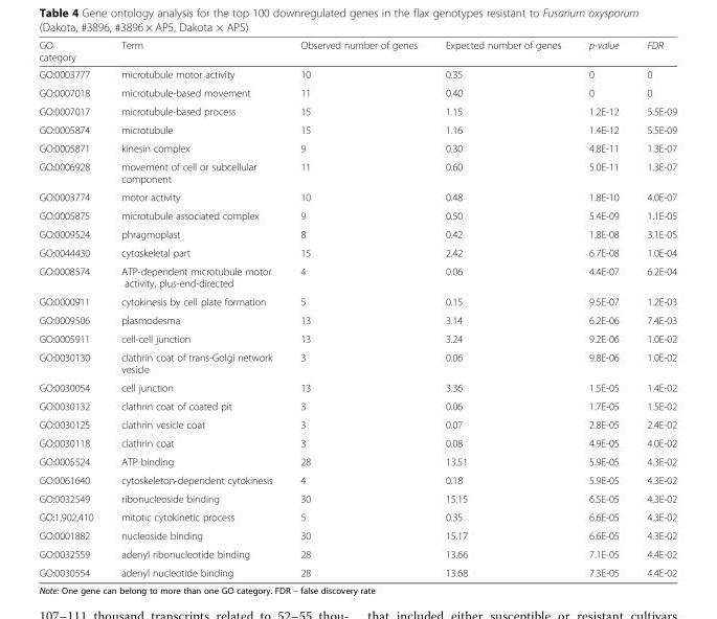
<table><thead><tr><td>GO category</td><td>Term</td><td>Observed number of genes</td><td>Expected number of genes</td><td>p-value</td><td>FDR</td></tr></thead><tbody><tr><td>GO:0003777</td><td>microtubule motor activity</td><td>10</td><td>0.35</td><td>0</td><td>0</td></tr><tr><td>GO:0007018</td><td>microtubule-based movement</td><td>11</td><td>0.40</td><td>0</td><td>0</td></tr><tr><td>GO:0007017</td><td>microtubule-based process</td><td>15</td><td>1.15</td><td>1.2E-12</td><td>5.5E-09</td></tr><tr><td>GO:0005874</td><td>microtubule</td><td>15</td><td>1.16</td><td>1.4E-12</td><td>5.5E-09</td></tr><tr><td>GO:0005871</td><td>kinesin complex</td><td>9</td><td>0.30</td><td>4.8E-11</td><td>1.3E-07</td></tr><tr><td>GO:0006928</td><td>movement of cell or subcellular component</td><td>11</td><td>0.60</td><td>5.0E-11</td><td>1.3E-07</td></tr><tr><td>GO:0003774</td><td>motor activity</td><td>10</td><td>0.48</td><td>1.8E-10</td><td>4.0E-07</td></tr><tr><td>GO:0005875</td><td>microtubule associated complex</td><td>9</td><td>0.50</td><td>5.4E-09</td><td>1.1E-05</td></tr><tr><td>GO:0009524</td><td>phragmoplast</td><td>8</td><td>0.42</td><td>1.8E-08</td><td>3.1E-05</td></tr><tr><td>GO:0044430</td><td>cytoskeletal part</td><td>15</td><td>2.42</td><td>6.7E-08</td><td>1.0E-04</td></tr><tr><td>GO:0008574</td><td>ATP-dependent microtubule motor activity, plus-end-directed</td><td>4</td><td>0.06</td><td>4.4E-07</td><td>6.2E-04</td></tr><tr><td>GO:0000911</td><td>cytokinesis by cell plate formation</td><td>5</td><td>0.15</td><td>9.5E-07</td><td>1.2E-03</td></tr><tr><td>GO:0009506</td><td>plasmodesma</td><td>13</td><td>3.14</td><td>6.2E-06</td><td>7.4E-03</td></tr><tr><td>GO:0005911</td><td>cell-cell junction</td><td>13</td><td>3.24</td><td>9.2E-06</td><td>1.0E-02</td></tr><tr><td>GO:0030130</td><td>clathrin coat of trans-Golgi network vesicle</td><td>3</td><td>0.06</td><td>9.8E-06</td><td>1.0E-02</td></tr><tr><td>GO:0030054</td><td>cell junction</td><td>13</td><td>3.36</td><td>1.5E-05</td><td>1.4E-02</td></tr><tr><td>GO:0030132</td><td>clathrin coat of coated pit</td><td>3</td><td>0.06</td><td>1.7E-05</td><td>1.5E-02</td></tr><tr><td>GO:0030125</td><td>clathrin vesicle coat</td><td>3</td><td>0.07</td><td>2.8E-05</td><td>2.4E-02</td></tr><tr><td>GO:0030118</td><td>clathrin coat</td><td>3</td><td>0.08</td><td>4.9E-05</td><td>4.0E-02</td></tr><tr><td>GO:0005524</td><td>ATP binding</td><td>28</td><td>13.51</td><td>5.9E-05</td><td>4.3E-02</td></tr><tr><td>GO:0061640</td><td>cytoskeleton-dependent cytokinesis</td><td>4</td><td>0.18</td><td>5.9E-05</td><td>4.3E-02</td></tr><tr><td>GO:0032549</td><td>ribonucleoside binding</td><td>30</td><td>15.15</td><td>6.5E-05</td><td>4.3E-02</td></tr><tr><td>GO:1,902,410</td><td>mitotic cytokinetic process</td><td>5</td><td>0.35</td><td>6.6E-05</td><td>4.3E-02</td></tr><tr><td>GO:0001882</td><td>nucleoside binding</td><td>30</td><td>15.17</td><td>6.6E-05</td><td>4.3E-02</td></tr><tr><td>GO:0032559</td><td>adenyl ribonucleotide binding</td><td>28</td><td>13.66</td><td>7.1E-05</td><td>4.4E-02</td></tr><tr><td>GO:0030554</td><td>adenyl nucleotide binding</td><td>28</td><td>13.68</td><td>7.3E-05</td><td>4.4E-02</td></tr></tbody></table>